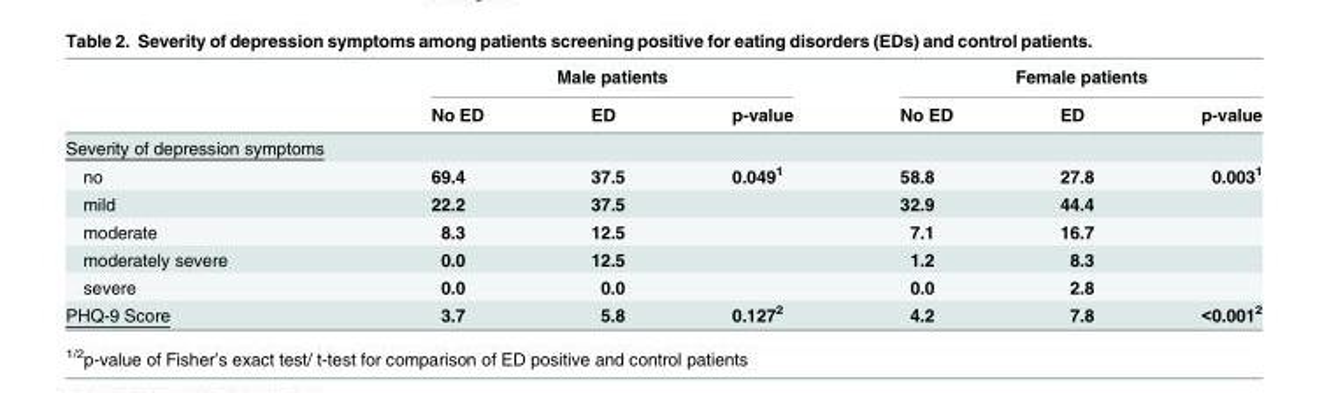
<table><thead><tr><td rowspan="2"></td><td colspan="3">Male patients</td><td colspan="3">Female patients</td></tr><tr><td>No ED</td><td>ED</td><td>p-value</td><td>No ED</td><td>ED</td><td>p-value</td></tr></thead><tbody><tr><td colspan="7">Severity of depression symptoms</td></tr><tr><td>no</td><td>69.4</td><td>37.5</td><td>0.049<sup>1</sup></td><td>58.8</td><td>27.8</td><td>0.003<sup>1</sup></td></tr><tr><td>mild</td><td>22.2</td><td>37.5</td><td></td><td>32.9</td><td>44.4</td><td></td></tr><tr><td>moderate</td><td>8.3</td><td>12.5</td><td></td><td>7.1</td><td>16.7</td><td></td></tr><tr><td>moderately severe</td><td>0.0</td><td>12.5</td><td></td><td>1.2</td><td>8.3</td><td></td></tr><tr><td>severe</td><td>0.0</td><td>0.0</td><td></td><td>0.0</td><td>2.8</td><td></td></tr><tr><td>PHQ-9 Score</td><td>3.7</td><td>5.8</td><td>0.127<sup>2</sup></td><td>4.2</td><td>7.8</td><td>&lt;0.001<sup>2</sup></td></tr></tbody></table>